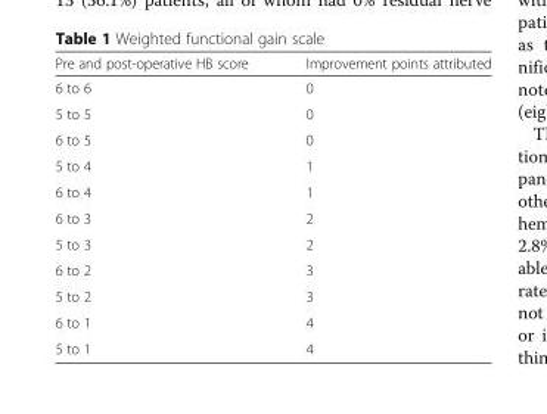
<table><thead><tr><td>Pre and post-operative HB score</td><td>Improvement points attributed</td></tr></thead><tbody><tr><td>6 to 6</td><td>0</td></tr><tr><td>5 to 5</td><td>0</td></tr><tr><td>6 to 5</td><td>0</td></tr><tr><td>5 to 4</td><td>1</td></tr><tr><td>6 to 4</td><td>1</td></tr><tr><td>6 to 3</td><td>2</td></tr><tr><td>5 to 3</td><td>2</td></tr><tr><td>6 to 2</td><td>3</td></tr><tr><td>5 to 2</td><td>3</td></tr><tr><td>6 to 1</td><td>4</td></tr><tr><td>5 to 1</td><td>4</td></tr></tbody></table>